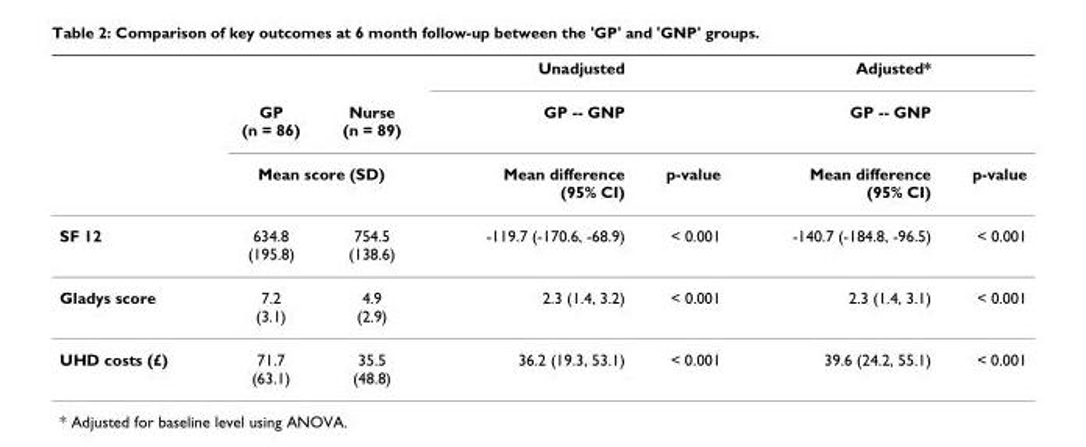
<table><thead><tr><td rowspan="3"></td><td rowspan="2">GP (n = 86)</td><td rowspan="2">Nurse (n = 89)</td><td rowspan="3">Unadjusted GP -- GNP Mean difference (95% CI)</td><td rowspan="3">p-value</td><td rowspan="3">Adjusted* GP -- GNP Mean difference (95% CI)</td><td rowspan="3">p-value</td></tr><tr></tr><tr><td colspan="2">Mean score (SD)</td></tr></thead><tbody><tr><td>SF 12</td><td>634.8 (195.8)</td><td>754.5 (138.6)</td><td>-119.7 (-170.6, -68.9)</td><td>&lt; 0.001</td><td>-140.7 (-184.8, -96.5)</td><td>&lt; 0.001</td></tr><tr><td>Gladys score</td><td>7.2 (3.1)</td><td>4.9 (2.9)</td><td>2.3 (1.4, 3.2)</td><td>&lt; 0.001</td><td>2.3 (1.4, 3.1)</td><td>&lt; 0.001</td></tr><tr><td>UHD costs (£)</td><td>71.7 (63.1)</td><td>35.5 (48.8)</td><td>36.2 (19.3, 53.1)</td><td>&lt; 0.001</td><td>39.6 (24.2, 55.1)</td><td>&lt; 0.001</td></tr></tbody></table>